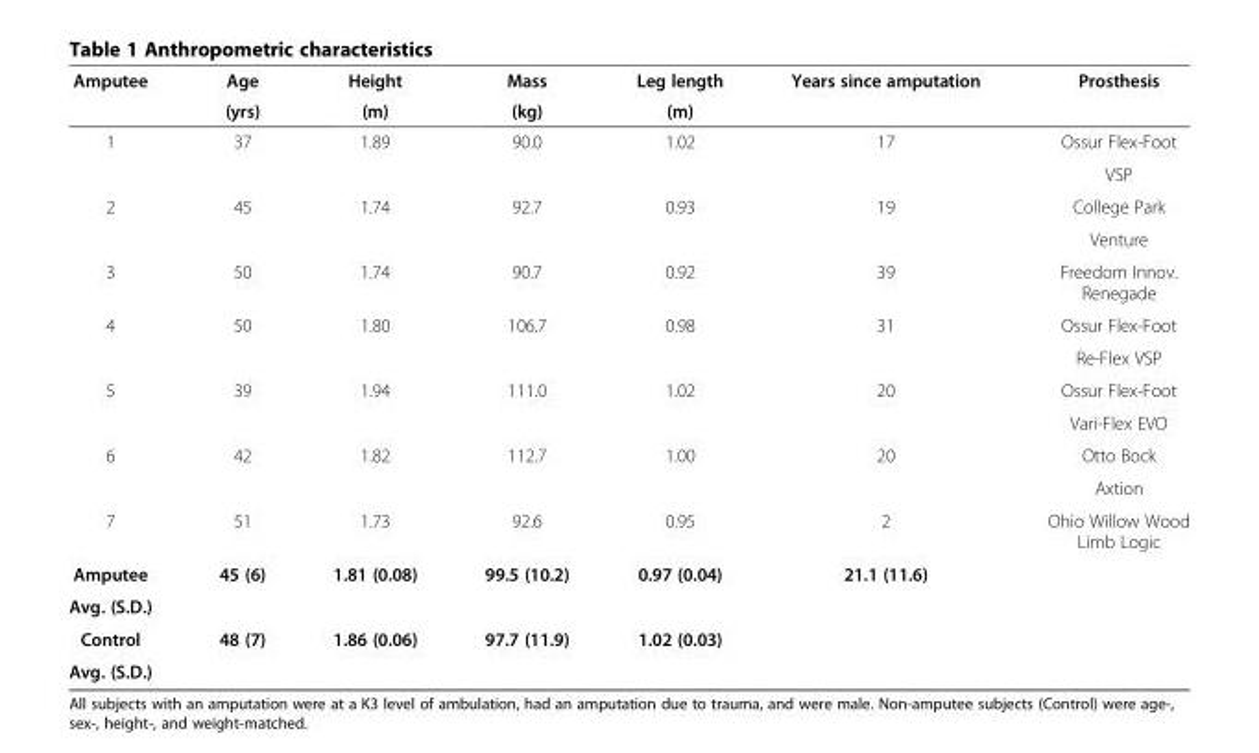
<table><thead><tr><td rowspan="2">Amputee</td><td rowspan="2">Age (yrs)</td><td rowspan="2">Height (m)</td><td rowspan="2">Mass (kg)</td><td rowspan="2">Leg length (m)</td><td rowspan="2">Years since amputation</td><td rowspan="2">Prosthesis</td></tr><tr></tr></thead><tbody><tr><td rowspan="2">1</td><td>37</td><td>1.89</td><td>90.0</td><td>1.02</td><td>17</td><td>Ossur Flex-Foot</td></tr><tr><td></td><td></td><td></td><td></td><td></td><td>VSP</td></tr><tr><td rowspan="2">2</td><td>45</td><td>1.74</td><td>92.7</td><td>0.93</td><td>19</td><td>College Park</td></tr><tr><td></td><td></td><td></td><td></td><td></td><td>Venture</td></tr><tr><td>3</td><td>50</td><td>1.74</td><td>90.7</td><td>0.92</td><td>39</td><td>Freedom Innov. Renegade</td></tr><tr><td rowspan="2">4</td><td>50</td><td>1.80</td><td>106.7</td><td>0.98</td><td>31</td><td>Ossur Flex-Foot</td></tr><tr><td></td><td></td><td></td><td></td><td></td><td>Re-Flex VSP</td></tr><tr><td rowspan="2">5</td><td>39</td><td>1.94</td><td>111.0</td><td>1.02</td><td>20</td><td>Ossur Flex-Foot</td></tr><tr><td></td><td></td><td></td><td></td><td></td><td>Vari-Flex EVO</td></tr><tr><td rowspan="2">6</td><td>42</td><td>1.82</td><td>112.7</td><td>1.00</td><td>20</td><td>Otto Bock</td></tr><tr><td></td><td></td><td></td><td></td><td></td><td>Axtion</td></tr><tr><td>7</td><td>51</td><td>1.73</td><td>92.6</td><td>0.95</td><td>2</td><td>Ohio Willow Wood Limb Logic</td></tr><tr><td>Amputee</td><td>45 (6)</td><td>1.81 (0.08)</td><td>99.5 (10.2)</td><td>0.97 (0.04)</td><td>21.1 (11.6)</td><td></td></tr><tr><td colspan="7">Avg. (S.D.)</td></tr><tr><td>Control</td><td>48 (7)</td><td>1.86 (0.06)</td><td>97.7 (11.9)</td><td>1.02 (0.03)</td><td></td><td></td></tr><tr><td>Avg. (S.D.)</td><td></td><td></td><td></td><td></td><td></td><td></td></tr></tbody></table>